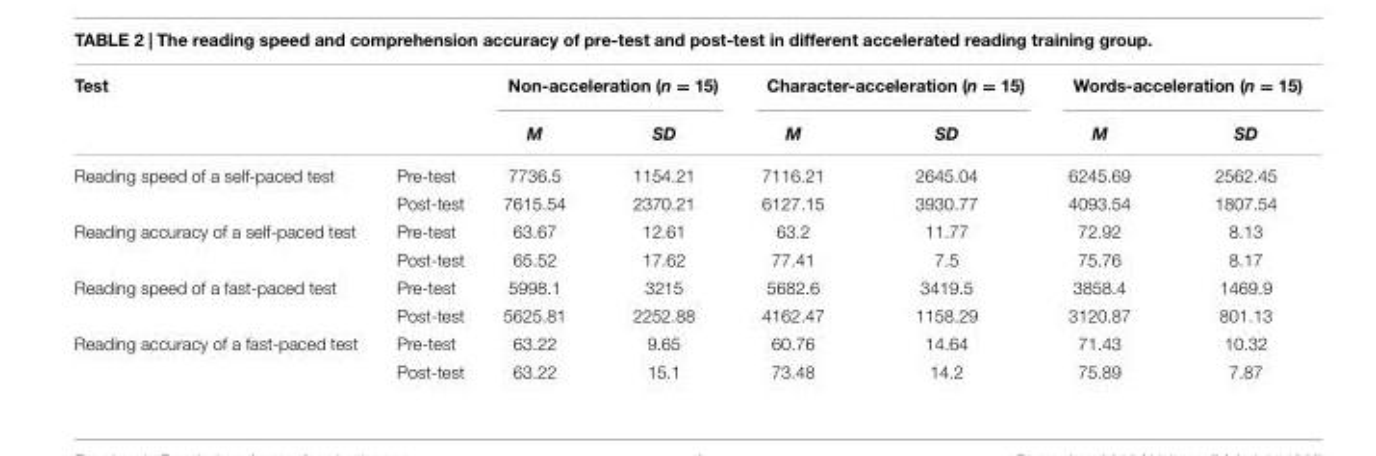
<table><thead><tr><td rowspan="2">Test</td><td rowspan="2"></td><td colspan="2">Non-acceleration (n = 15)</td><td colspan="2">Character-acceleration (n = 15)</td><td colspan="2">Words-acceleration (n = 15)</td></tr><tr><td>M</td><td>SD</td><td>M</td><td>SD</td><td>M</td><td>SD</td></tr></thead><tbody><tr><td rowspan="2">Reading speed of a self-paced test</td><td>Pre-test</td><td>7736.5</td><td>1154.21</td><td>7116.21</td><td>2645.04</td><td>6245.69</td><td>2562.45</td></tr><tr><td>Post-test</td><td>7615.54</td><td>2370.21</td><td>6127.15</td><td>3930.77</td><td>4093.54</td><td>1807.54</td></tr><tr><td rowspan="2">Reading accuracy of a self-paced test</td><td>Pre-test</td><td>63.67</td><td>12.61</td><td>63.2</td><td>11.77</td><td>72.92</td><td>8.13</td></tr><tr><td>Post-test</td><td>65.52</td><td>17.62</td><td>77.41</td><td>7.5</td><td>75.76</td><td>8.17</td></tr><tr><td rowspan="2">Reading speed of a fast-paced test</td><td>Pre-test</td><td>5998.1</td><td>3215</td><td>5682.6</td><td>3419.5</td><td>3858.4</td><td>1469.9</td></tr><tr><td>Post-test</td><td>5625.81</td><td>2252.88</td><td>4162.47</td><td>1158.29</td><td>3120.87</td><td>801.13</td></tr><tr><td rowspan="2">Reading accuracy of a fast-paced test</td><td>Pre-test</td><td>63.22</td><td>9.65</td><td>60.76</td><td>14.64</td><td>71.43</td><td>10.32</td></tr><tr><td>Post-test</td><td>63.22</td><td>15.1</td><td>73.48</td><td>14.2</td><td>75.89</td><td>7.87</td></tr></tbody></table>